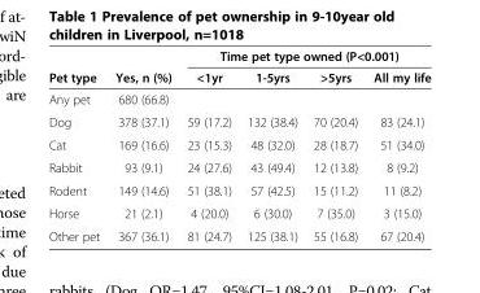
<table><thead><tr><td rowspan="2">Pet type</td><td rowspan="2">Yes, n (%)</td><td colspan="4">Time pet type owned (P&lt;0.001)</td></tr><tr><td>&lt;1yr</td><td>1-5yrs</td><td>&gt;5yrs</td><td>All my life</td></tr></thead><tbody><tr><td>Any pet</td><td>680 (66.8)</td><td></td><td></td><td></td><td></td></tr><tr><td>Dog</td><td>378 (37.1)</td><td>59 (17.2)</td><td>132 (38.4)</td><td>70 (20.4)</td><td>83 (24.1)</td></tr><tr><td>Cat</td><td>169 (16.6)</td><td>23 (15.3)</td><td>48 (32.0)</td><td>28 (18.7)</td><td>51 (34.0)</td></tr><tr><td>Rabbit</td><td>93 (9.1)</td><td>24 (27.6)</td><td>43 (49.4)</td><td>12 (13.8)</td><td>8 (9.2)</td></tr><tr><td>Rodent</td><td>149 (14.6)</td><td>51 (38.1)</td><td>57 (42.5)</td><td>15 (11.2)</td><td>11 (8.2)</td></tr><tr><td>Horse</td><td>21 (2.1)</td><td>4 (20.0)</td><td>6 (30.0)</td><td>7 (35.0)</td><td>3 (15.0)</td></tr><tr><td>Other pet</td><td>367 (36.1)</td><td>81 (24.7)</td><td>125 (38.1)</td><td>55 (16.8)</td><td>67 (20.4)</td></tr></tbody></table>